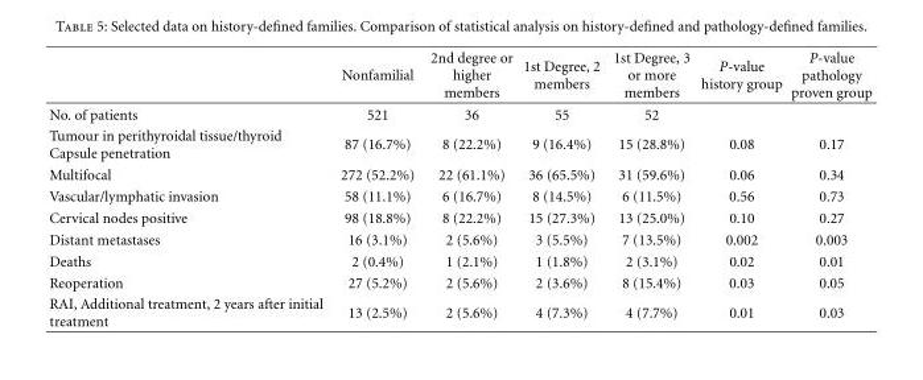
<table><thead><tr><td></td><td>Nonfamilial</td><td>2nd degree or higher members</td><td>1st Degree, 2 members</td><td>1st Degree, 3 or more members</td><td>P-value history group</td><td>P-value pathology proven group</td></tr></thead><tbody><tr><td>No. of patients</td><td>521</td><td>36</td><td>55</td><td>52</td><td></td><td></td></tr><tr><td>Tumour in perithyroidal tissue/thyroid Capsule penetration</td><td>87 (16.7%)</td><td>8 (22.2%)</td><td>9 (16.4%)</td><td>15 (28.8%)</td><td>0.08</td><td>0.17</td></tr><tr><td>Multifocal</td><td>272 (52.2%)</td><td>22 (61.1%)</td><td>36 (65.5%)</td><td>31 (59.6%)</td><td>0.06</td><td>0.34</td></tr><tr><td>Vascular/lymphatic invasion</td><td>58 (11.1%)</td><td>6 (16.7%)</td><td>8 (14.5%)</td><td>6 (11.5%)</td><td>0.56</td><td>0.73</td></tr><tr><td>Cervical nodes positive</td><td>98 (18.8%)</td><td>8 (22.2%)</td><td>15 (27.3%)</td><td>13 (25.0%)</td><td>0.10</td><td>0.27</td></tr><tr><td>Distant metastases</td><td>16 (3.1%)</td><td>2 (5.6%)</td><td>3 (5.5%)</td><td>7 (13.5%)</td><td>0.002</td><td>0.003</td></tr><tr><td>Deaths</td><td>2 (0.4%)</td><td>1 (2.1%)</td><td>1 (1.8%)</td><td>2 (3.1%)</td><td>0.02</td><td>0.01</td></tr><tr><td>Reoperation</td><td>27 (5.2%)</td><td>2 (5.6%)</td><td>2 (3.6%)</td><td>8 (15.4%)</td><td>0.03</td><td>0.05</td></tr><tr><td>RAI, Additional treatment, 2 years after initial treatment</td><td>13 (2.5%)</td><td>2 (5.6%)</td><td>4 (7.3%)</td><td>4 (7.7%)</td><td>0.01</td><td>0.03</td></tr></tbody></table>